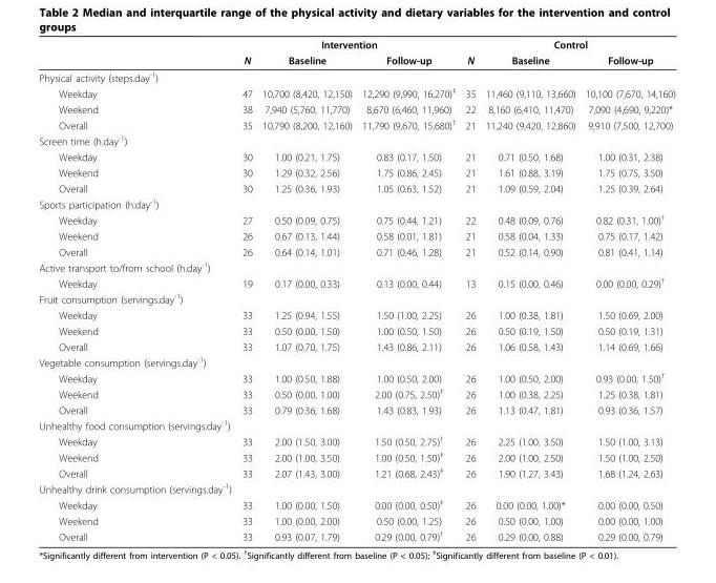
<table><thead><tr><td rowspan="2"></td><td colspan="3">Intervention</td><td colspan="3">Control</td></tr><tr><td>N</td><td>Baseline</td><td>Follow-up</td><td>N</td><td>Baseline</td><td>Follow-up</td></tr></thead><tbody><tr><td colspan="7">Physical activity (steps.day<sup>-1</sup>)</td></tr><tr><td>Weekday</td><td>47</td><td>10,700 (8,420, 12,150)</td><td>12,290 (9,990, 16,270)<sup>‡</sup></td><td>35</td><td>11,460 (9,110, 13,660)</td><td>10,100 (7,670, 14,160)</td></tr><tr><td>Weekend</td><td>38</td><td>7,940 (5,760, 11,770)</td><td>8,670 (6,460, 11,960)</td><td>22</td><td>8,160 (6,410, 11,470)</td><td>7,090 (4,690, 9,220)*</td></tr><tr><td>Overall</td><td>35</td><td>10,790 (8,200, 12,160)</td><td>11,790 (9,670, 15,680)<sup>†</sup></td><td>21</td><td>11,240 (9,420, 12,860)</td><td>9,910 (7,500, 12,700)</td></tr><tr><td colspan="7">Screen time (h.day<sup>-1</sup>)</td></tr><tr><td>Weekday</td><td>30</td><td>1.00 (0.21, 1.75)</td><td>0.83 (0.17, 1.50)</td><td>21</td><td>0.71 (0.50, 1.68)</td><td>1.00 (0.31, 2.38)</td></tr><tr><td>Weekend</td><td>30</td><td>1.29 (0.32, 2.56)</td><td>1.75 (0.86, 2.45)</td><td>21</td><td>1.61 (0.88, 3.19)</td><td>1.75 (0.75, 3.50)</td></tr><tr><td>Overall</td><td>30</td><td>1.25 (0.36, 1.93)</td><td>1.05 (0.63, 1.52)</td><td>21</td><td>1.09 (0.59, 2.04)</td><td>1.25 (0.39, 2.64)</td></tr><tr><td colspan="7">Sports participation (h.day<sup>-1</sup>)</td></tr><tr><td>Weekday</td><td>27</td><td>0.50 (0.09, 0.75)</td><td>0.75 (0.44, 1.21)</td><td>22</td><td>0.48 (0.09, 0.76)</td><td>0.82 (0.31, 1.00)<sup>†</sup></td></tr><tr><td>Weekend</td><td>26</td><td>0.67 (0.13, 1.44)</td><td>0.58 (0.01, 1.81)</td><td>21</td><td>0.58 (0.04, 1.33)</td><td>0.75 (0.17, 1.42)</td></tr><tr><td>Overall</td><td>26</td><td>0.64 (0.14, 1.01)</td><td>0.71 (0.46, 1.28)</td><td>21</td><td>0.52 (0.14, 0.90)</td><td>0.81 (0.41, 1.14)</td></tr><tr><td colspan="7">Active transport to/from school (h.day<sup>-1</sup>)</td></tr><tr><td>Weekday</td><td>19</td><td>0.17 (0.00, 0.33)</td><td>0.13 (0.00, 0.44)</td><td>13</td><td>0.15 (0.00, 0.46)</td><td>0.00 (0.00, 0.29)<sup>†</sup></td></tr><tr><td colspan="7">Fruit consumption (servings.day<sup>-1</sup>)</td></tr><tr><td>Weekday</td><td>33</td><td>1.25 (0.94, 1.55)</td><td>1.50 (1.00, 2.25)</td><td>26</td><td>1.00 (0.38, 1.81)</td><td>1.50 (0.69, 2.00)</td></tr><tr><td>Weekend</td><td>33</td><td>0.50 (0.00, 1.50)</td><td>1.00 (0.50, 1.50)</td><td>26</td><td>0.50 (0.19, 1.50)</td><td>0.50 (0.19, 1.31)</td></tr><tr><td>Overall</td><td>33</td><td>1.07 (0.70, 1.75)</td><td>1.43 (0.86, 2.11)</td><td>26</td><td>1.06 (0.58, 1.43)</td><td>1.14 (0.69, 1.66)</td></tr><tr><td colspan="7">Vegetable consumption (servings.day<sup>-1</sup>)</td></tr><tr><td>Weekday</td><td>33</td><td>1.00 (0.50, 1.88)</td><td>1.00 (0.50, 2.00)</td><td>26</td><td>1.00 (0.50, 2.00)</td><td>0.93 (0.00, 1.50)<sup>†</sup></td></tr><tr><td>Weekend</td><td>33</td><td>0.50 (0.00, 1.00)</td><td>2.00 (0.75, 2.50)<sup>‡</sup></td><td>26</td><td>1.00 (0.38, 2.25)</td><td>1.25 (0.38, 1.81)</td></tr><tr><td>Overall</td><td>33</td><td>0.79 (0.36, 1.68)</td><td>1.43 (0.83, 1.93)</td><td>26</td><td>1.13 (0.47, 1.81)</td><td>0.93 (0.36, 1.57)</td></tr><tr><td colspan="7">Unhealthy food consumption (servings.day<sup>-1</sup>)</td></tr><tr><td>Weekday</td><td>33</td><td>2.00 (1.50, 3.00)</td><td>1.50 (0.50, 2.75)<sup>†</sup></td><td>26</td><td>2.25 (1.00, 3.50)</td><td>1.50 (1.00, 3.13)</td></tr><tr><td>Weekend</td><td>33</td><td>2.00 (1.00, 3.50)</td><td>1.00 (0.50, 1.50)<sup>‡</sup></td><td>26</td><td>2.00 (1.00, 2.50)</td><td>1.50 (1.00, 2.50)</td></tr><tr><td>Overall</td><td>33</td><td>2.07 (1.43, 3.00)</td><td>1.21 (0.68, 2.43)<sup>‡</sup></td><td>26</td><td>1.90 (1.27, 3.43)</td><td>1.68 (1.24, 2.63)</td></tr><tr><td colspan="7">Unhealthy drink consumption (servings.day<sup>-1</sup>)</td></tr><tr><td>Weekday</td><td>33</td><td>1.00 (0.00, 1.50)</td><td>0.00 (0.00, 0.50)<sup>‡</sup></td><td>26</td><td>0.00 (0.00, 1.00)*</td><td>0.00 (0.00, 0.50)</td></tr><tr><td>Weekend</td><td>33</td><td>1.00 (0.00, 2.00)</td><td>0.50 (0.00, 1.25)</td><td>26</td><td>0.50 (0.00, 1.00)</td><td>0.00 (0.00, 1.00)</td></tr><tr><td>Overall</td><td>33</td><td>0.93 (0.07, 1.79)</td><td>0.29 (0.00, 0.79)<sup>†</sup></td><td>26</td><td>0.29 (0.00, 0.88)</td><td>0.29 (0.00, 0.79)</td></tr></tbody></table>